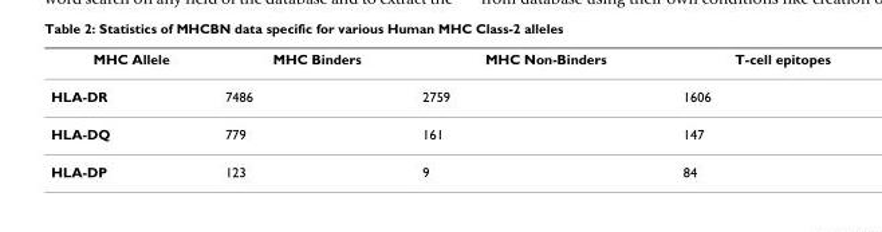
<table><thead><tr><td>MHC Allele</td><td>MHC Binders</td><td>MHC Non-Binders</td><td>T-cell epitopes</td></tr></thead><tbody><tr><td>HLA-DR</td><td>7486</td><td>2759</td><td>1606</td></tr><tr><td>HLA-DQ</td><td>779</td><td>161</td><td>147</td></tr><tr><td>HLA-DP</td><td>123</td><td>9</td><td>84</td></tr></tbody></table>